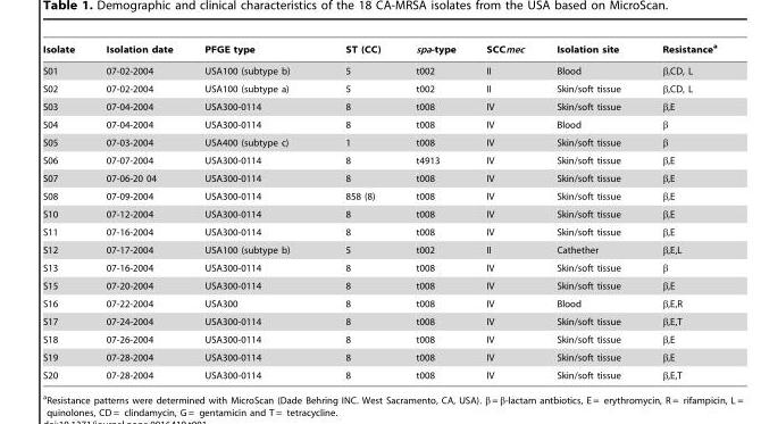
<table><thead><tr><td>Isolate</td><td>Isolation date</td><td>PFGE type</td><td>ST (CC)</td><td>spa-type</td><td>SCCmec</td><td>Isolation site</td><td>Resistance<sup>a</sup></td></tr></thead><tbody><tr><td>S01</td><td>07-02-2004</td><td>USA100 (subtype b)</td><td>5</td><td>t002</td><td>II</td><td>Blood</td><td>β,CD, L</td></tr><tr><td>S02</td><td>07-02-2004</td><td>USA100 (subtype a)</td><td>5</td><td>t002</td><td>II</td><td>Skin/soft tissue</td><td>β,CD, L</td></tr><tr><td>S03</td><td>07-04-2004</td><td>USA300-0114</td><td>8</td><td>t008</td><td>IV</td><td>Skin/soft tissue</td><td>β,E</td></tr><tr><td>S04</td><td>07-04-2004</td><td>USA300-0114</td><td>8</td><td>t008</td><td>IV</td><td>Blood</td><td>β</td></tr><tr><td>S05</td><td>07-03-2004</td><td>USA400 (subtype c)</td><td>1</td><td>t008</td><td>IV</td><td>Skin/soft tissue</td><td>β</td></tr><tr><td>S06</td><td>07-07-2004</td><td>USA300-0114</td><td>8</td><td>t4913</td><td>IV</td><td>Skin/soft tissue</td><td>β,E</td></tr><tr><td>S07</td><td>07-06-20 04</td><td>USA300-0114</td><td>8</td><td>t008</td><td>IV</td><td>Skin/soft tissue</td><td>β,E</td></tr><tr><td>S08</td><td>07-09-2004</td><td>USA300-0114</td><td>858 (8)</td><td>t008</td><td>IV</td><td>Skin/soft tissue</td><td>β,E</td></tr><tr><td>S10</td><td>07-12-2004</td><td>USA300-0114</td><td>8</td><td>t008</td><td>IV</td><td>Skin/soft tissue</td><td>β,E</td></tr><tr><td>S11</td><td>07-16-2004</td><td>USA300-0114</td><td>8</td><td>t008</td><td>IV</td><td>Skin/soft tissue</td><td>β,E</td></tr><tr><td>S12</td><td>07-17-2004</td><td>USA100 (subtype b)</td><td>5</td><td>t002</td><td>II</td><td>Cathether</td><td>β,E,L</td></tr><tr><td>S13</td><td>07-16-2004</td><td>USA300-0114</td><td>8</td><td>t008</td><td>IV</td><td>Skin/soft tissue</td><td>β</td></tr><tr><td>S15</td><td>07-20-2004</td><td>USA300-0114</td><td>8</td><td>t008</td><td>IV</td><td>Skin/soft tissue</td><td>β,E</td></tr><tr><td>S16</td><td>07-22-2004</td><td>USA300</td><td>8</td><td>t008</td><td>IV</td><td>Blood</td><td>β,E,R</td></tr><tr><td>S17</td><td>07-24-2004</td><td>USA300-0114</td><td>8</td><td>t008</td><td>IV</td><td>Skin/soft tissue</td><td>β,E,T</td></tr><tr><td>S18</td><td>07-26-2004</td><td>USA300-0114</td><td>8</td><td>t008</td><td>IV</td><td>Skin/soft tissue</td><td>β,E</td></tr><tr><td>S19</td><td>07-28-2004</td><td>USA300-0114</td><td>8</td><td>t008</td><td>IV</td><td>Skin/soft tissue</td><td>β,E</td></tr><tr><td>S20</td><td>07-28-2004</td><td>USA300-0114</td><td>8</td><td>t008</td><td>IV</td><td>Skin/soft tissue</td><td>β,E,T</td></tr></tbody></table>